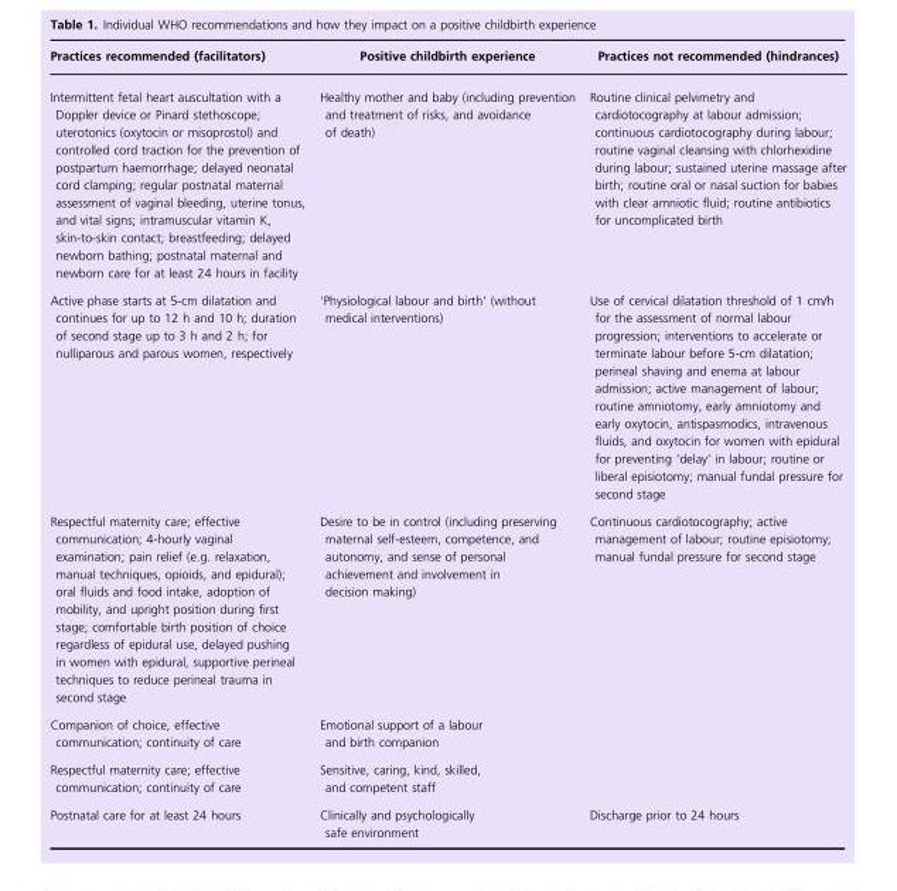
<table><thead><tr><td>Practices recommended (facilitators)</td><td>Positive childbirth experience</td><td>Practices not recommended (hindrances)</td></tr></thead><tbody><tr><td>Intermittent fetal heart auscultation with a Doppler device or Pinard stethoscope; uterotonics (oxytocin or misoprostol) and controlled cord traction for the prevention of postpartum haemorrhage; delayed neonatal cord clamping; regular postnatal maternal assessment of vaginal bleeding, uterine tonus, and vital signs; intramuscular vitamin K, skin-to-skin contact; breastfeeding; delayed newborn bathing; postnatal maternal and newborn care for at least 24 hours in facility</td><td>Healthy mother and baby (including prevention and treatment of risks, and avoidance of death)</td><td>Routine clinical pelvimetry and cardiotocography at labour admission; continuous cardiotocography during labour; routine vaginal cleansing with chlorhexidine during labour; sustained uterine massage after birth; routine oral or nasal suction for babies with clear amniotic fluid; routine antibiotics for uncomplicated birth</td></tr><tr><td>Active phase starts at 5-cm dilatation and continues for up to 12 h and 10 h; duration of second stage up to 3 h and 2 h; for nulliparous and parous women, respectively</td><td>‘Physiological labour and birth’ (without medical interventions)</td><td>Use of cervical dilatation threshold of 1 cm/h for the assessment of normal labour progression; interventions to accelerate or terminate labour before 5-cm dilatation; perineal shaving and enema at labour admission; active management of labour; routine amniotomy, early amniotomy and early oxytocin, antispasmodics, intravenous fluids, and oxytocin for women with epidural for preventing ‘delay’ in labour; routine or liberal episiotomy; manual fundal pressure for second stage</td></tr><tr><td>Respectful maternity care; effective communication; 4-hourly vaginal examination; pain relief (e.g. relaxation, manual techniques, opioids, and epidural); oral fluids and food intake, adoption of mobility, and upright position during first stage; comfortable birth position of choice regardless of epidural use, delayed pushing in women with epidural, supportive perineal techniques to reduce perineal trauma in second stage</td><td>Desire to be in control (including preserving maternal self-esteem, competence, and autonomy, and sense of personal achievement and involvement in decision making)</td><td>Continuous cardiotocography; active management of labour; routine episiotomy; manual fundal pressure for second stage</td></tr><tr><td>Companion of choice, effective communication; continuity of care</td><td>Emotional support of a labour and birth companion</td><td></td></tr><tr><td>Respectful maternity care; effective communication; continuity of care</td><td>Sensitive, caring, kind, skilled, and competent staff</td><td></td></tr><tr><td>Postnatal care for at least 24 hours</td><td>Clinically and psychologically safe environment</td><td>Discharge prior to 24 hours</td></tr></tbody></table>